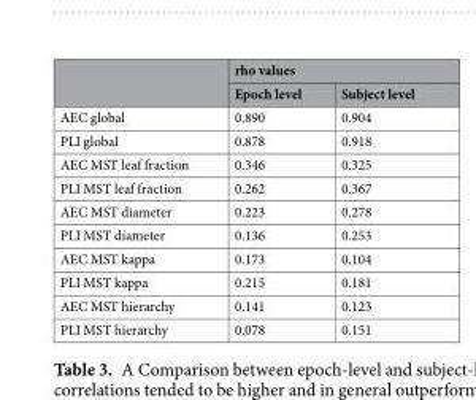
<table><thead><tr><td rowspan="2"></td><td colspan="2">rho values</td></tr><tr><td>Epoch level</td><td>Subject level</td></tr></thead><tbody><tr><td>AEC global</td><td>0.890</td><td>0.904</td></tr><tr><td>PLI global</td><td>0.878</td><td>0.918</td></tr><tr><td>AEC MST leaf fraction</td><td>0.346</td><td>0.325</td></tr><tr><td>PLI MST leaf fraction</td><td>0.262</td><td>0.367</td></tr><tr><td>AEC MST diameter</td><td>0.223</td><td>0.278</td></tr><tr><td>PLI MST diameter</td><td>0.136</td><td>0.253</td></tr><tr><td>AEC MST kappa</td><td>0.173</td><td>0.104</td></tr><tr><td>PLI MST kappa</td><td>0.215</td><td>0.181</td></tr><tr><td>AEC MST hierarchy</td><td>0.141</td><td>0.123</td></tr><tr><td>PLI MST hierarchy</td><td>0.078</td><td>0.151</td></tr></tbody></table>